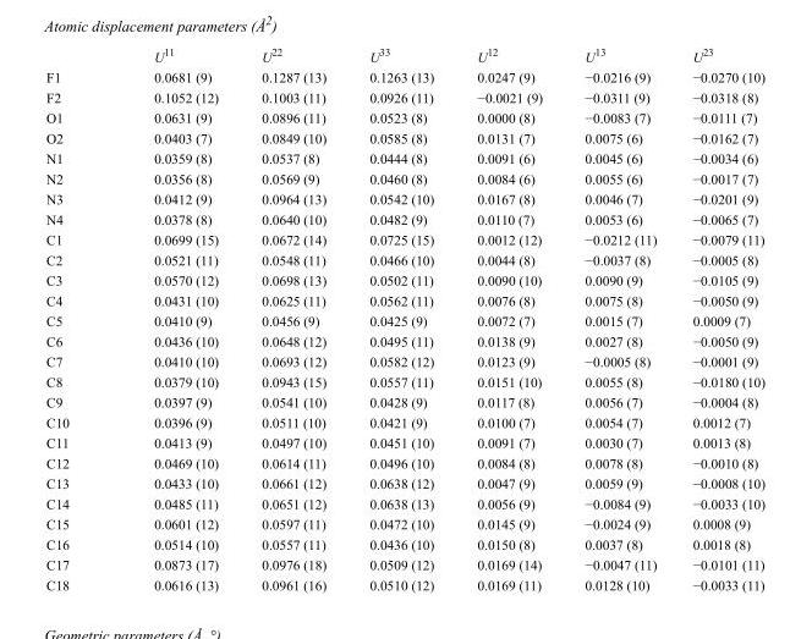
<table><thead><tr><td></td><td>U<sup>11</sup></td><td>U<sup>22</sup></td><td>U<sup>33</sup></td><td>U<sup>12</sup></td><td>U<sup>13</sup></td><td>U<sup>23</sup></td></tr></thead><tbody><tr><td>F1</td><td>0.0681 (9)</td><td>0.1287 (13)</td><td>0.1263 (13)</td><td>0.0247 (9)</td><td>−0.0216 (9)</td><td>−0.0270 (10)</td></tr><tr><td>F2</td><td>0.1052 (12)</td><td>0.1003 (11)</td><td>0.0926 (11)</td><td>−0.0021 (9)</td><td>−0.0311 (9)</td><td>−0.0318 (8)</td></tr><tr><td>O1</td><td>0.0631 (9)</td><td>0.0896 (11)</td><td>0.0523 (8)</td><td>0.0000 (8)</td><td>−0.0083 (7)</td><td>−0.0111 (7)</td></tr><tr><td>O2</td><td>0.0403 (7)</td><td>0.0849 (10)</td><td>0.0585 (8)</td><td>0.0131 (7)</td><td>0.0075 (6)</td><td>−0.0162 (7)</td></tr><tr><td>N1</td><td>0.0359 (8)</td><td>0.0537 (8)</td><td>0.0444 (8)</td><td>0.0091 (6)</td><td>0.0045 (6)</td><td>−0.0034 (6)</td></tr><tr><td>N2</td><td>0.0356 (8)</td><td>0.0569 (9)</td><td>0.0460 (8)</td><td>0.0084 (6)</td><td>0.0055 (6)</td><td>−0.0017 (7)</td></tr><tr><td>N3</td><td>0.0412 (9)</td><td>0.0964 (13)</td><td>0.0542 (10)</td><td>0.0167 (8)</td><td>0.0046 (7)</td><td>−0.0201 (9)</td></tr><tr><td>N4</td><td>0.0378 (8)</td><td>0.0640 (10)</td><td>0.0482 (9)</td><td>0.0110 (7)</td><td>0.0053 (6)</td><td>−0.0065 (7)</td></tr><tr><td>C1</td><td>0.0699 (15)</td><td>0.0672 (14)</td><td>0.0725 (15)</td><td>0.0012 (12)</td><td>−0.0212 (11)</td><td>−0.0079 (11)</td></tr><tr><td>C2</td><td>0.0521 (11)</td><td>0.0548 (11)</td><td>0.0466 (10)</td><td>0.0044 (8)</td><td>−0.0037 (8)</td><td>−0.0005 (8)</td></tr><tr><td>C3</td><td>0.0570 (12)</td><td>0.0698 (13)</td><td>0.0502 (11)</td><td>0.0090 (10)</td><td>0.0090 (9)</td><td>−0.0105 (9)</td></tr><tr><td>C4</td><td>0.0431 (10)</td><td>0.0625 (11)</td><td>0.0562 (11)</td><td>0.0076 (8)</td><td>0.0075 (8)</td><td>−0.0050 (9)</td></tr><tr><td>C5</td><td>0.0410 (9)</td><td>0.0456 (9)</td><td>0.0425 (9)</td><td>0.0072 (7)</td><td>0.0015 (7)</td><td>0.0009 (7)</td></tr><tr><td>C6</td><td>0.0436 (10)</td><td>0.0648 (12)</td><td>0.0495 (11)</td><td>0.0138 (9)</td><td>0.0027 (8)</td><td>−0.0050 (9)</td></tr><tr><td>C7</td><td>0.0410 (10)</td><td>0.0693 (12)</td><td>0.0582 (12)</td><td>0.0123 (9)</td><td>−0.0005 (8)</td><td>−0.0001 (9)</td></tr><tr><td>C8</td><td>0.0379 (10)</td><td>0.0943 (15)</td><td>0.0557 (11)</td><td>0.0151 (10)</td><td>0.0055 (8)</td><td>−0.0180 (10)</td></tr><tr><td>C9</td><td>0.0397 (9)</td><td>0.0541 (10)</td><td>0.0428 (9)</td><td>0.0117 (8)</td><td>0.0056 (7)</td><td>−0.0004 (8)</td></tr><tr><td>C10</td><td>0.0396 (9)</td><td>0.0511 (10)</td><td>0.0421 (9)</td><td>0.0100 (7)</td><td>0.0054 (7)</td><td>0.0012 (7)</td></tr><tr><td>C11</td><td>0.0413 (9)</td><td>0.0497 (10)</td><td>0.0451 (10)</td><td>0.0091 (7)</td><td>0.0030 (7)</td><td>0.0013 (8)</td></tr><tr><td>C12</td><td>0.0469 (10)</td><td>0.0614 (11)</td><td>0.0496 (10)</td><td>0.0084 (8)</td><td>0.0078 (8)</td><td>−0.0010 (8)</td></tr><tr><td>C13</td><td>0.0433 (10)</td><td>0.0661 (12)</td><td>0.0638 (12)</td><td>0.0047 (9)</td><td>0.0059 (9)</td><td>−0.0008 (10)</td></tr><tr><td>C14</td><td>0.0485 (11)</td><td>0.0651 (12)</td><td>0.0638 (13)</td><td>0.0056 (9)</td><td>−0.0084 (9)</td><td>−0.0033 (10)</td></tr><tr><td>C15</td><td>0.0601 (12)</td><td>0.0597 (11)</td><td>0.0472 (10)</td><td>0.0145 (9)</td><td>−0.0024 (9)</td><td>0.0008 (9)</td></tr><tr><td>C16</td><td>0.0514 (10)</td><td>0.0557 (11)</td><td>0.0436 (10)</td><td>0.0150 (8)</td><td>0.0037 (8)</td><td>0.0018 (8)</td></tr><tr><td>C17</td><td>0.0873 (17)</td><td>0.0976 (18)</td><td>0.0509 (12)</td><td>0.0169 (14)</td><td>−0.0047 (11)</td><td>−0.0101 (11)</td></tr><tr><td>C18</td><td>0.0616 (13)</td><td>0.0961 (16)</td><td>0.0510 (12)</td><td>0.0169 (11)</td><td>0.0128 (10)</td><td>−0.0033 (11)</td></tr></tbody></table>